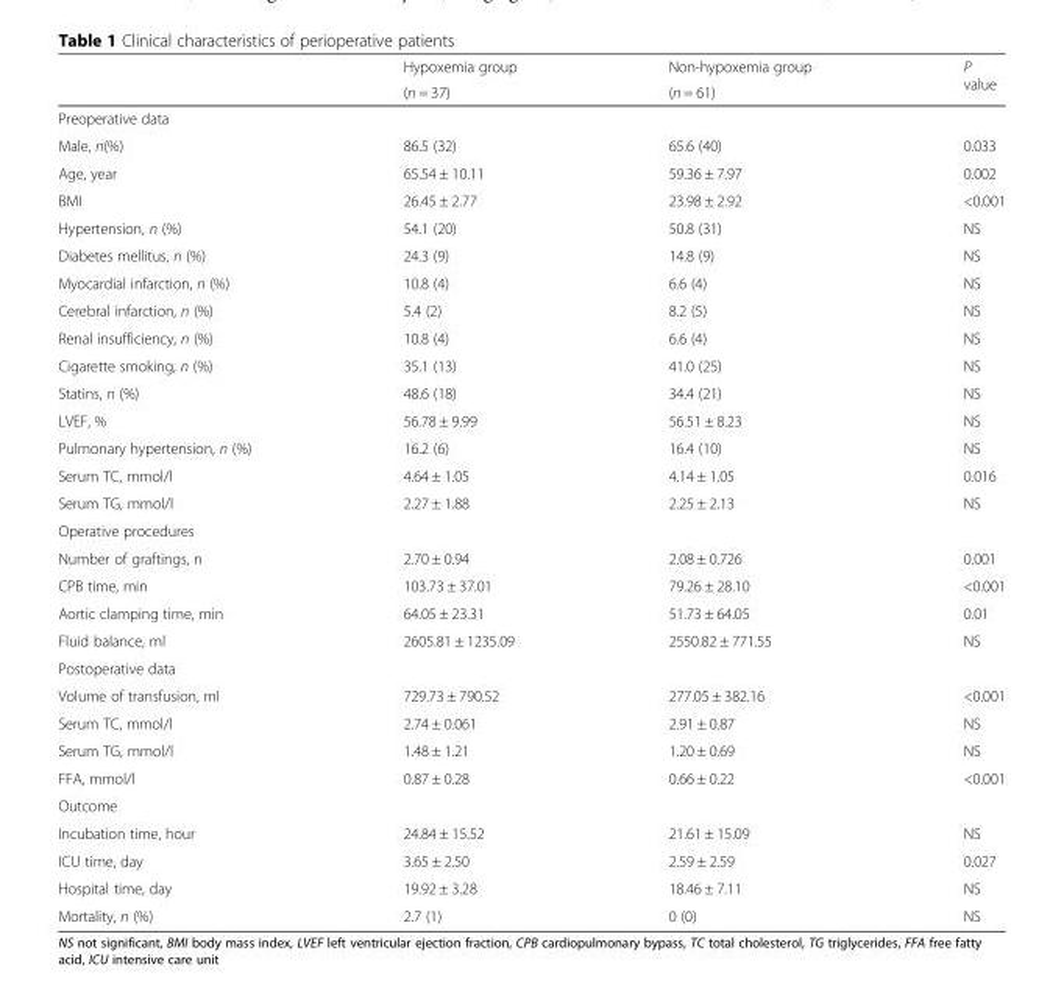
<table><thead><tr><td rowspan="2"></td><td rowspan="2">Hypoxemia group (n = 37)</td><td rowspan="2">Non-hypoxemia group (n = 61)</td><td rowspan="2">P value</td></tr><tr></tr></thead><tbody><tr><td colspan="4">Preoperative data</td></tr><tr><td>Male, n(%)</td><td>86.5 (32)</td><td>65.6 (40)</td><td>0.033</td></tr><tr><td>Age, year</td><td>65.54 ± 10.11</td><td>59.36 ± 7.97</td><td>0.002</td></tr><tr><td>BMI</td><td>26.45 ± 2.77</td><td>23.98 ± 2.92</td><td>&lt;0.001</td></tr><tr><td>Hypertension, n (%)</td><td>54.1 (20)</td><td>50.8 (31)</td><td>NS</td></tr><tr><td>Diabetes mellitus, n (%)</td><td>24.3 (9)</td><td>14.8 (9)</td><td>NS</td></tr><tr><td>Myocardial infarction, n (%)</td><td>10.8 (4)</td><td>6.6 (4)</td><td>NS</td></tr><tr><td>Cerebral infarction, n (%)</td><td>5.4 (2)</td><td>8.2 (5)</td><td>NS</td></tr><tr><td>Renal insufficiency, n (%)</td><td>10.8 (4)</td><td>6.6 (4)</td><td>NS</td></tr><tr><td>Cigarette smoking, n (%)</td><td>35.1 (13)</td><td>41.0 (25)</td><td>NS</td></tr><tr><td>Statins, n (%)</td><td>48.6 (18)</td><td>34.4 (21)</td><td>NS</td></tr><tr><td>LVEF, %</td><td>56.78 ± 9.99</td><td>56.51 ± 8.23</td><td>NS</td></tr><tr><td>Pulmonary hypertension, n (%)</td><td>16.2 (6)</td><td>16.4 (10)</td><td>NS</td></tr><tr><td>Serum TC, mmol/l</td><td>4.64 ± 1.05</td><td>4.14 ± 1.05</td><td>0.016</td></tr><tr><td>Serum TG, mmol/l</td><td>2.27 ± 1.88</td><td>2.25 ± 2.13</td><td>NS</td></tr><tr><td colspan="4">Operative procedures</td></tr><tr><td>Number of graftings, n</td><td>2.70 ± 0.94</td><td>2.08 ± 0.726</td><td>0.001</td></tr><tr><td>CPB time, min</td><td>103.73 ± 37.01</td><td>79.26 ± 28.10</td><td>&lt;0.001</td></tr><tr><td>Aortic clamping time, min</td><td>64.05 ± 23.31</td><td>51.73 ± 64.05</td><td>0.01</td></tr><tr><td>Fluid balance, ml</td><td>2605.81 ± 1235.09</td><td>2550.82 ± 771.55</td><td>NS</td></tr><tr><td colspan="4">Postoperative data</td></tr><tr><td>Volume of transfusion, ml</td><td>729.73 ± 790.52</td><td>277.05 ± 382.16</td><td>&lt;0.001</td></tr><tr><td>Serum TC, mmol/l</td><td>2.74 ± 0.061</td><td>2.91 ± 0.87</td><td>NS</td></tr><tr><td>Serum TG, mmol/l</td><td>1.48 ± 1.21</td><td>1.20 ± 0.69</td><td>NS</td></tr><tr><td>FFA, mmol/l</td><td>0.87 ± 0.28</td><td>0.66 ± 0.22</td><td>&lt;0.001</td></tr><tr><td colspan="4">Outcome</td></tr><tr><td>Incubation time, hour</td><td>24.84 ± 15.52</td><td>21.61 ± 15.09</td><td>NS</td></tr><tr><td>ICU time, day</td><td>3.65 ± 2.50</td><td>2.59 ± 2.59</td><td>0.027</td></tr><tr><td>Hospital time, day</td><td>19.92 ± 3.28</td><td>18.46 ± 7.11</td><td>NS</td></tr><tr><td>Mortality, n (%)</td><td>2.7 (1)</td><td>0 (0)</td><td>NS</td></tr></tbody></table>